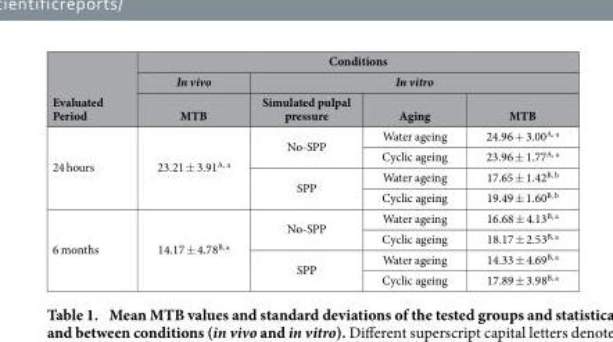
<table><thead><tr><td rowspan="3">Evaluated Period</td><td colspan="4">Conditions</td></tr><tr><td rowspan="2">In vivo MTB</td><td colspan="3">In vitro</td></tr><tr><td>Simulated pulpal pressure</td><td>Aging</td><td>MTB</td></tr></thead><tbody><tr><td rowspan="4">24 hours</td><td rowspan="4">23.21 ± 3.91<sup>A, a</sup></td><td rowspan="2">No-SPP</td><td>Water ageing</td><td>24.96 + 3.00<sup>A, a</sup></td></tr><tr><td>Cyclic ageing</td><td>23.96 ± 1.77<sup>A, a</sup></td></tr><tr><td rowspan="2">SPP</td><td>Water ageing</td><td>17.65 ± 1.42<sup>B, b</sup></td></tr><tr><td>Cyclic ageing</td><td>19.49 ± 1.60<sup>B, b</sup></td></tr><tr><td rowspan="4">6 months</td><td rowspan="4">14.17 ± 4.78<sup>B, a</sup></td><td rowspan="2">No-SPP</td><td>Water ageing</td><td>16.68 ± 4.13<sup>B, a</sup></td></tr><tr><td>Cyclic ageing</td><td>18.17 ± 2.53<sup>B, a</sup></td></tr><tr><td rowspan="2">SPP</td><td>Water ageing</td><td>14.33 ± 4.69<sup>B, a</sup></td></tr><tr><td>Cyclic ageing</td><td>17.89 ± 3.98<sup>B, a</sup></td></tr></tbody></table>